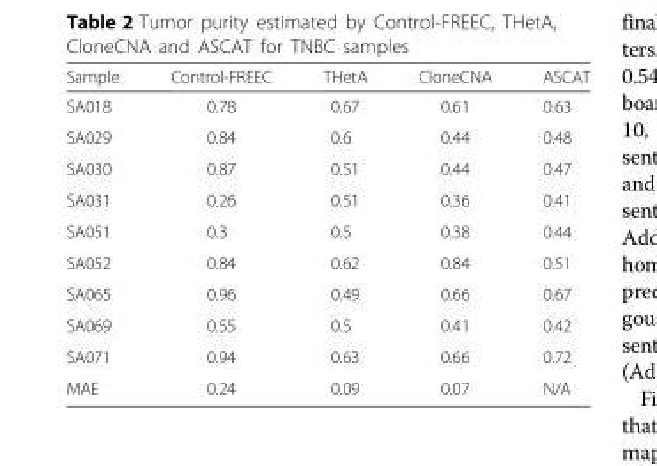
<table><thead><tr><td>Sample</td><td>Control-FREEC</td><td>THetA</td><td>CloneCNA</td><td>ASCAT</td></tr></thead><tbody><tr><td>SA018</td><td>0.78</td><td>0.67</td><td>0.61</td><td>0.63</td></tr><tr><td>SA029</td><td>0.84</td><td>0.6</td><td>0.44</td><td>0.48</td></tr><tr><td>SA030</td><td>0.87</td><td>0.51</td><td>0.44</td><td>0.47</td></tr><tr><td>SA031</td><td>0.26</td><td>0.51</td><td>0.36</td><td>0.41</td></tr><tr><td>SA051</td><td>0.3</td><td>0.5</td><td>0.38</td><td>0.44</td></tr><tr><td>SA052</td><td>0.84</td><td>0.62</td><td>0.84</td><td>0.51</td></tr><tr><td>SA065</td><td>0.96</td><td>0.49</td><td>0.66</td><td>0.67</td></tr><tr><td>SA069</td><td>0.55</td><td>0.5</td><td>0.41</td><td>0.42</td></tr><tr><td>SA071</td><td>0.94</td><td>0.63</td><td>0.66</td><td>0.72</td></tr><tr><td>MAE</td><td>0.24</td><td>0.09</td><td>0.07</td><td>N/A</td></tr></tbody></table>